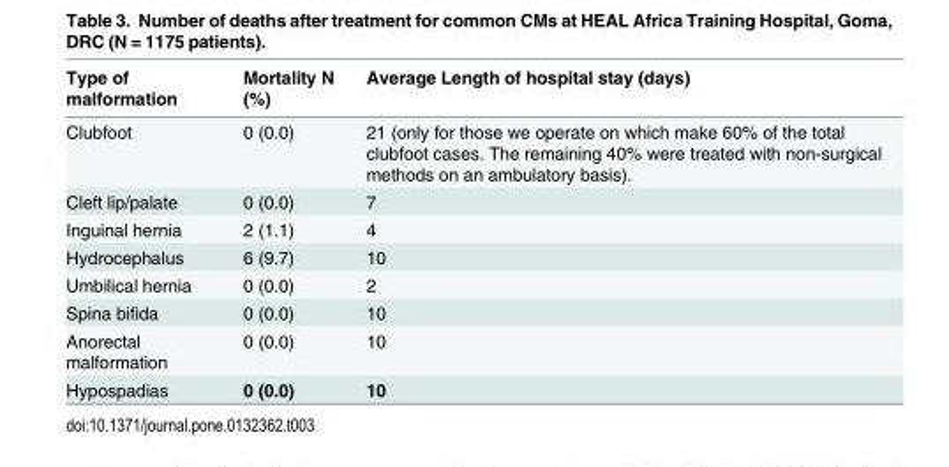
<table><thead><tr><td>Type of malformation</td><td>Mortality N (%)</td><td>Average Length of hospital stay (days)</td></tr></thead><tbody><tr><td>Clubfoot</td><td>0 (0.0)</td><td>21 (only for those we operate on which make 60% of the total clubfoot cases. The remaining 40% were treated with non-surgical methods on an ambulatory basis).</td></tr><tr><td>Cleft lip/palate</td><td>0 (0.0)</td><td>7</td></tr><tr><td>Inguinal hernia</td><td>2 (1.1)</td><td>4</td></tr><tr><td>Hydrocephalus</td><td>6 (9.7)</td><td>10</td></tr><tr><td>Umbilical hernia</td><td>0 (0.0)</td><td>2</td></tr><tr><td>Spina bifida</td><td>0 (0.0)</td><td>10</td></tr><tr><td>Anorectal malformation</td><td>0 (0.0)</td><td>10</td></tr><tr><td>Hypospadias</td><td>0 (0.0)</td><td>10</td></tr></tbody></table>